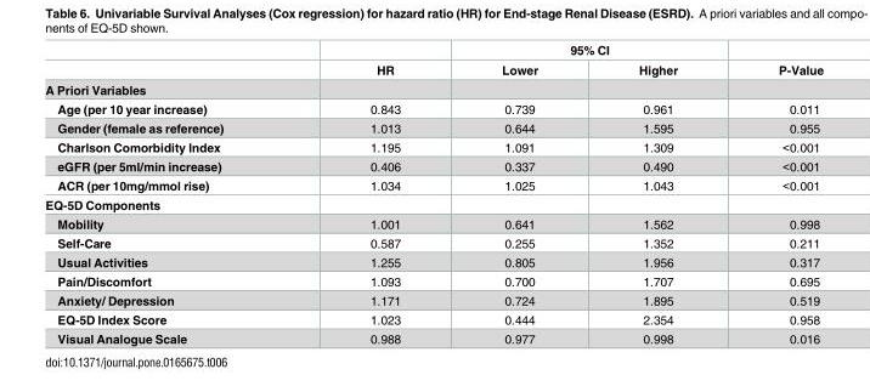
<table><thead><tr><td rowspan="2"></td><td rowspan="2">HR</td><td colspan="2">95% CI</td><td rowspan="2">P-Value</td></tr><tr><td>Lower</td><td>Higher</td></tr></thead><tbody><tr><td colspan="5">A Priori Variables</td></tr><tr><td>Age (per 10 year increase)</td><td>0.843</td><td>0.739</td><td>0.961</td><td>0.011</td></tr><tr><td>Gender (female as reference)</td><td>1.013</td><td>0.644</td><td>1.595</td><td>0.955</td></tr><tr><td>Charlson Comorbidity Index</td><td>1.195</td><td>1.091</td><td>1.309</td><td>&lt;0.001</td></tr><tr><td>eGFR (per 5ml/min increase)</td><td>0.406</td><td>0.337</td><td>0.490</td><td>&lt;0.001</td></tr><tr><td>ACR (per 10mg/mmol rise)</td><td>1.034</td><td>1.025</td><td>1.043</td><td>&lt;0.001</td></tr><tr><td colspan="5">EQ-5D Components</td></tr><tr><td>Mobility</td><td>1.001</td><td>0.641</td><td>1.562</td><td>0.998</td></tr><tr><td>Self-Care</td><td>0.587</td><td>0.255</td><td>1.352</td><td>0.211</td></tr><tr><td>Usual Activities</td><td>1.255</td><td>0.805</td><td>1.956</td><td>0.317</td></tr><tr><td>Pain/Discomfort</td><td>1.093</td><td>0.700</td><td>1.707</td><td>0.695</td></tr><tr><td>Anxiety/ Depression</td><td>1.171</td><td>0.724</td><td>1.895</td><td>0.519</td></tr><tr><td>EQ-5D Index Score</td><td>1.023</td><td>0.444</td><td>2.354</td><td>0.958</td></tr><tr><td>Visual Analogue Scale</td><td>0.988</td><td>0.977</td><td>0.998</td><td>0.016</td></tr></tbody></table>